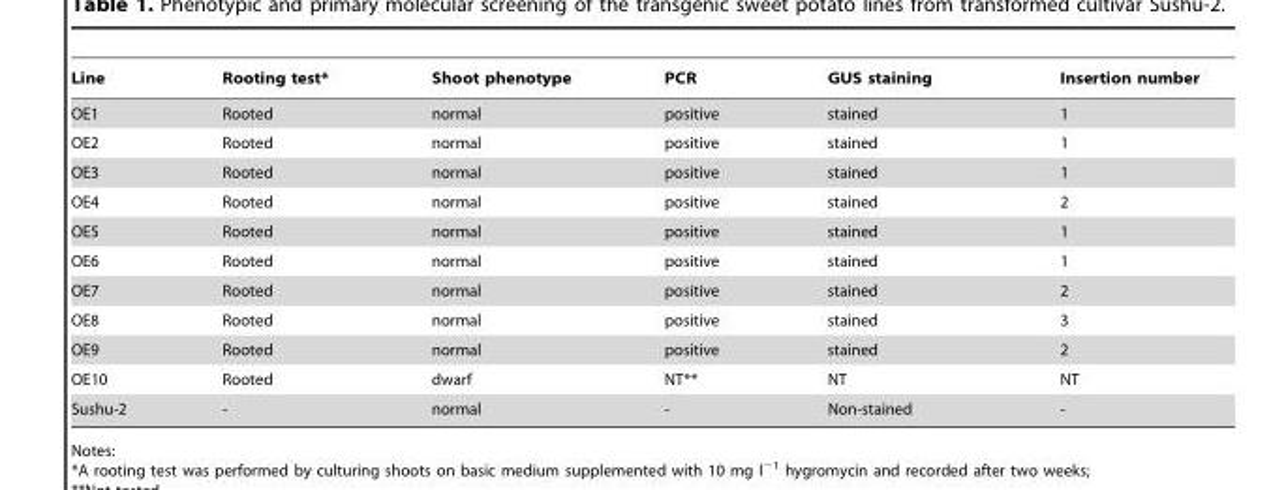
<table><thead><tr><td>Line</td><td>Rooting test*</td><td>Shoot phenotype</td><td>PCR</td><td>GUS staining</td><td>Insertion number</td></tr></thead><tbody><tr><td>OE1</td><td>Rooted</td><td>normal</td><td>positive</td><td>stained</td><td>1</td></tr><tr><td>OE2</td><td>Rooted</td><td>normal</td><td>positive</td><td>stained</td><td>1</td></tr><tr><td>OE3</td><td>Rooted</td><td>normal</td><td>positive</td><td>stained</td><td>1</td></tr><tr><td>OE4</td><td>Rooted</td><td>normal</td><td>positive</td><td>stained</td><td>2</td></tr><tr><td>OE5</td><td>Rooted</td><td>normal</td><td>positive</td><td>stained</td><td>1</td></tr><tr><td>OE6</td><td>Rooted</td><td>normal</td><td>positive</td><td>stained</td><td>1</td></tr><tr><td>OE7</td><td>Rooted</td><td>normal</td><td>positive</td><td>stained</td><td>2</td></tr><tr><td>OE8</td><td>Rooted</td><td>normal</td><td>positive</td><td>stained</td><td>3</td></tr><tr><td>OE9</td><td>Rooted</td><td>normal</td><td>positive</td><td>stained</td><td>2</td></tr><tr><td>OE10</td><td>Rooted</td><td>dwarf</td><td>NT**</td><td>NT</td><td>NT</td></tr><tr><td>Sushu-2</td><td>-</td><td>normal</td><td>-</td><td>Non-stained</td><td>-</td></tr></tbody></table>